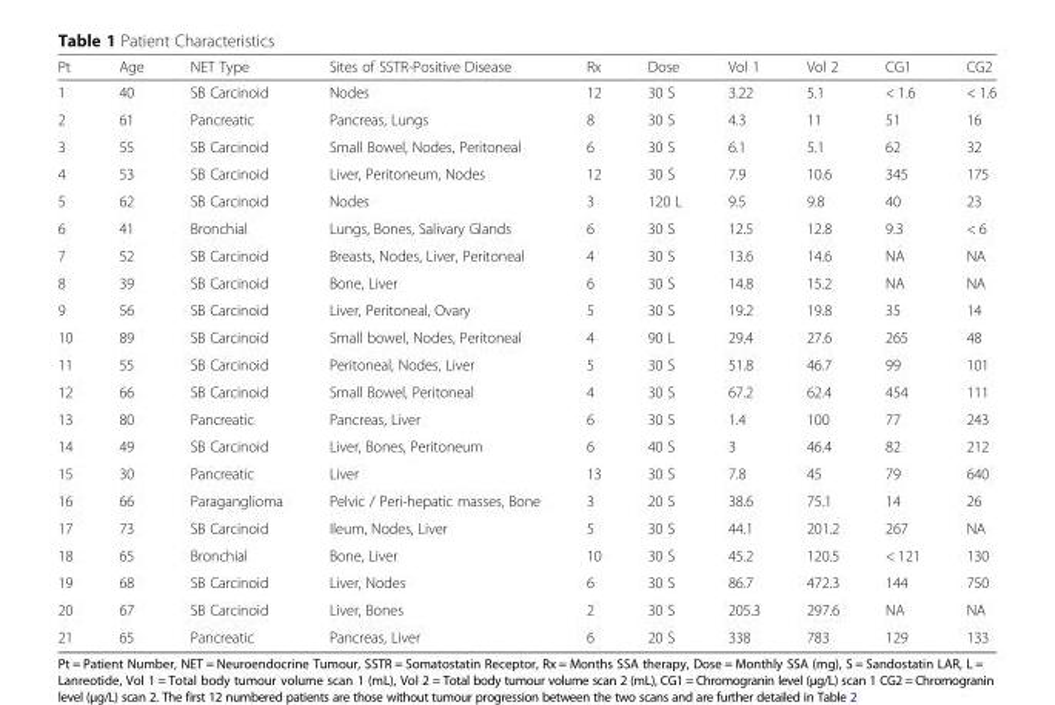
<table><thead><tr><td>Pt</td><td>Age</td><td>NET Type</td><td>Sites of SSTR-Positive Disease</td><td>Rx</td><td>Dose</td><td>Vol 1</td><td>Vol 2</td><td>CG1</td><td>CG2</td></tr></thead><tbody><tr><td>1</td><td>40</td><td>SB Carcinoid</td><td>Nodes</td><td>12</td><td>30 S</td><td>3.22</td><td>5.1</td><td>&lt; 1.6</td><td>&lt; 1.6</td></tr><tr><td>2</td><td>61</td><td>Pancreatic</td><td>Pancreas, Lungs</td><td>8</td><td>30 S</td><td>4.3</td><td>11</td><td>51</td><td>16</td></tr><tr><td>3</td><td>55</td><td>SB Carcinoid</td><td>Small Bowel, Nodes, Peritoneal</td><td>6</td><td>30 S</td><td>6.1</td><td>5.1</td><td>62</td><td>32</td></tr><tr><td>4</td><td>53</td><td>SB Carcinoid</td><td>Liver, Peritoneum, Nodes</td><td>12</td><td>30 S</td><td>7.9</td><td>10.6</td><td>345</td><td>175</td></tr><tr><td>5</td><td>62</td><td>SB Carcinoid</td><td>Nodes</td><td>3</td><td>120 L</td><td>9.5</td><td>9.8</td><td>40</td><td>23</td></tr><tr><td>6</td><td>41</td><td>Bronchial</td><td>Lungs, Bones, Salivary Glands</td><td>6</td><td>30 S</td><td>12.5</td><td>12.8</td><td>9.3</td><td>&lt; 6</td></tr><tr><td>7</td><td>52</td><td>SB Carcinoid</td><td>Breasts, Nodes, Liver, Peritoneal</td><td>4</td><td>30 S</td><td>13.6</td><td>14.6</td><td>NA</td><td>NA</td></tr><tr><td>8</td><td>39</td><td>SB Carcinoid</td><td>Bone, Liver</td><td>6</td><td>30 S</td><td>14.8</td><td>15.2</td><td>NA</td><td>NA</td></tr><tr><td>9</td><td>56</td><td>SB Carcinoid</td><td>Liver, Peritoneal, Ovary</td><td>5</td><td>30 S</td><td>19.2</td><td>19.8</td><td>35</td><td>14</td></tr><tr><td>10</td><td>89</td><td>SB Carcinoid</td><td>Small bowel, Nodes, Peritoneal</td><td>4</td><td>90 L</td><td>29.4</td><td>27.6</td><td>265</td><td>48</td></tr><tr><td>11</td><td>55</td><td>SB Carcinoid</td><td>Peritoneal, Nodes, Liver</td><td>5</td><td>30 S</td><td>51.8</td><td>46.7</td><td>99</td><td>101</td></tr><tr><td>12</td><td>66</td><td>SB Carcinoid</td><td>Small Bowel, Peritoneal</td><td>4</td><td>30 S</td><td>67.2</td><td>62.4</td><td>454</td><td>111</td></tr><tr><td>13</td><td>80</td><td>Pancreatic</td><td>Pancreas, Liver</td><td>6</td><td>30 S</td><td>1.4</td><td>100</td><td>77</td><td>243</td></tr><tr><td>14</td><td>49</td><td>SB Carcinoid</td><td>Liver, Bones, Peritoneum</td><td>6</td><td>40 S</td><td>3</td><td>46.4</td><td>82</td><td>212</td></tr><tr><td>15</td><td>30</td><td>Pancreatic</td><td>Liver</td><td>13</td><td>30 S</td><td>7.8</td><td>45</td><td>79</td><td>640</td></tr><tr><td>16</td><td>66</td><td>Paraganglioma</td><td>Pelvic / Peri-hepatic masses, Bone</td><td>3</td><td>20 S</td><td>38.6</td><td>75.1</td><td>14</td><td>26</td></tr><tr><td>17</td><td>73</td><td>SB Carcinoid</td><td>Ileum, Nodes, Liver</td><td>5</td><td>30 S</td><td>44.1</td><td>201.2</td><td>267</td><td>NA</td></tr><tr><td>18</td><td>65</td><td>Bronchial</td><td>Bone, Liver</td><td>10</td><td>30 S</td><td>45.2</td><td>120.5</td><td>&lt; 121</td><td>130</td></tr><tr><td>19</td><td>68</td><td>SB Carcinoid</td><td>Liver, Nodes</td><td>6</td><td>30 S</td><td>86.7</td><td>472.3</td><td>144</td><td>750</td></tr><tr><td>20</td><td>67</td><td>SB Carcinoid</td><td>Liver, Bones</td><td>2</td><td>30 S</td><td>205.3</td><td>297.6</td><td>NA</td><td>NA</td></tr><tr><td>21</td><td>65</td><td>Pancreatic</td><td>Pancreas, Liver</td><td>6</td><td>20 S</td><td>338</td><td>783</td><td>129</td><td>133</td></tr></tbody></table>